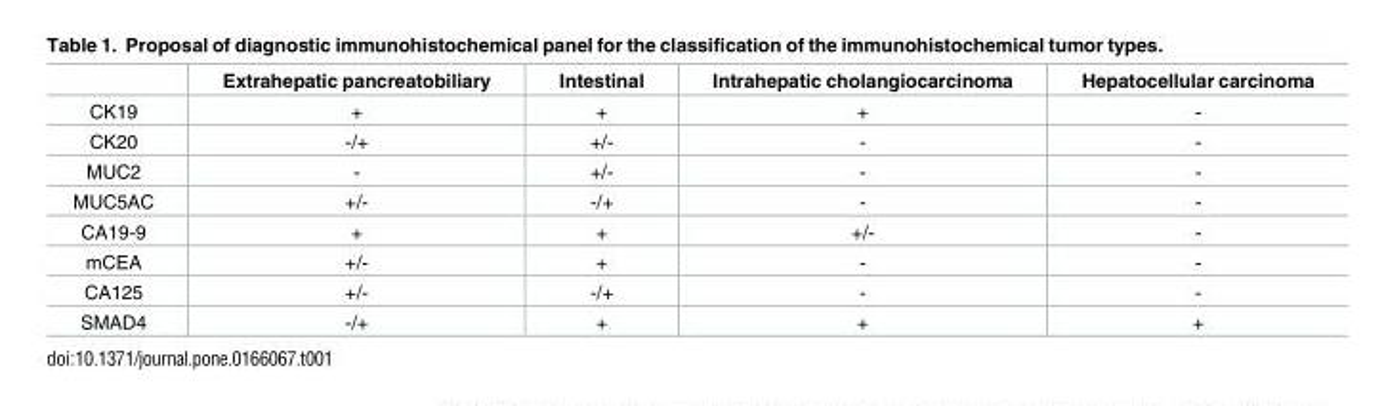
<table><thead><tr><td></td><td>Extrahepatic pancreatobiliary</td><td>Intestinal</td><td>Intrahepatic cholangiocarcinoma</td><td>Hepatocellular carcinoma</td></tr></thead><tbody><tr><td>CK19</td><td>+</td><td>+</td><td>+</td><td>-</td></tr><tr><td>CK20</td><td>-/+</td><td>+/-</td><td>-</td><td>-</td></tr><tr><td>MUC2</td><td>-</td><td>+/-</td><td>-</td><td>-</td></tr><tr><td>MUC5AC</td><td>+/-</td><td>-/+</td><td>-</td><td>-</td></tr><tr><td>CA19-9</td><td>+</td><td>+</td><td>+/-</td><td>-</td></tr><tr><td>mCEA</td><td>+/-</td><td>+</td><td>-</td><td>-</td></tr><tr><td>CA125</td><td>+/-</td><td>-/+</td><td>-</td><td>-</td></tr><tr><td>SMAD4</td><td>-/+</td><td>+</td><td>+</td><td>+</td></tr></tbody></table>